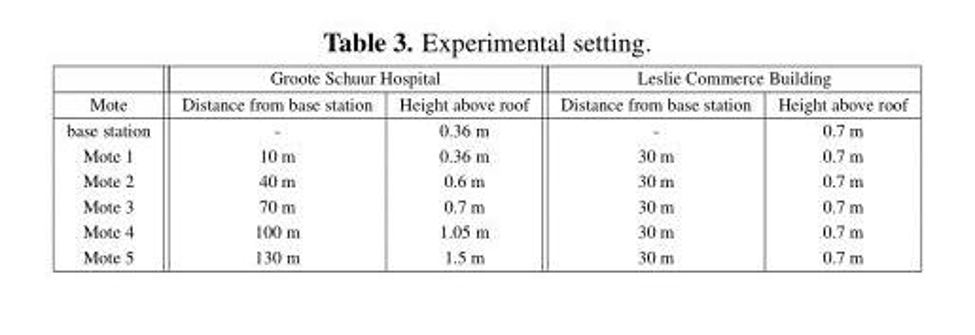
<table><thead><tr><td rowspan="2">Mote</td><td colspan="2">Groote Schuur Hospital</td><td colspan="2">Leslie Commerce Building</td></tr><tr><td>Distance from base station</td><td>Height above roof</td><td>Distance from base station</td><td>Height above roof</td></tr></thead><tbody><tr><td>base station</td><td>-</td><td>0.36 m</td><td>-</td><td>0.7 m</td></tr><tr><td>Mote 1</td><td>10 m</td><td>0.36 m</td><td>30 m</td><td>0.7 m</td></tr><tr><td>Mote 2</td><td>40 m</td><td>0.6 m</td><td>30 m</td><td>0.7 m</td></tr><tr><td>Mote 3</td><td>70 m</td><td>0.7 m</td><td>30 m</td><td>0.7 m</td></tr><tr><td>Mote 4</td><td>100 m</td><td>1.05 m</td><td>30 m</td><td>0.7 m</td></tr><tr><td>Mote 5</td><td>130 m</td><td>1.5 m</td><td>30 m</td><td>0.7 m</td></tr></tbody></table>